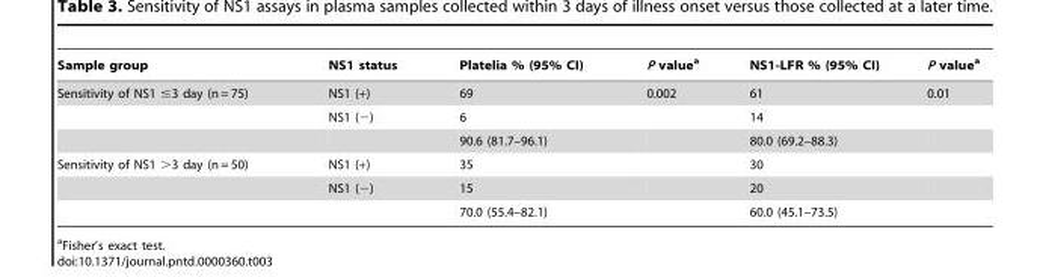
<table><thead><tr><td>Sample group</td><td>NS1 status</td><td>Platelia % (95% CI)</td><td>P value<sup>a</sup></td><td>NS1-LFR % (95% CI)</td><td>P value<sup>a</sup></td></tr></thead><tbody><tr><td rowspan="3">Sensitivity of NS1 ≤3 day (n = 75)</td><td>NS1 (+)</td><td>69</td><td>0.002</td><td>61</td><td>0.01</td></tr><tr><td>NS1 (−)</td><td>6</td><td></td><td>14</td><td></td></tr><tr><td></td><td>90.6 (81.7–96.1)</td><td></td><td>80.0 (69.2–88.3)</td><td></td></tr><tr><td rowspan="3">Sensitivity of NS1 &gt;3 day (n = 50)</td><td>NS1 (+)</td><td>35</td><td></td><td>30</td><td></td></tr><tr><td>NS1 (−)</td><td>15</td><td></td><td>20</td><td></td></tr><tr><td></td><td>70.0 (55.4–82.1)</td><td></td><td>60.0 (45.1–73.5)</td><td></td></tr></tbody></table>